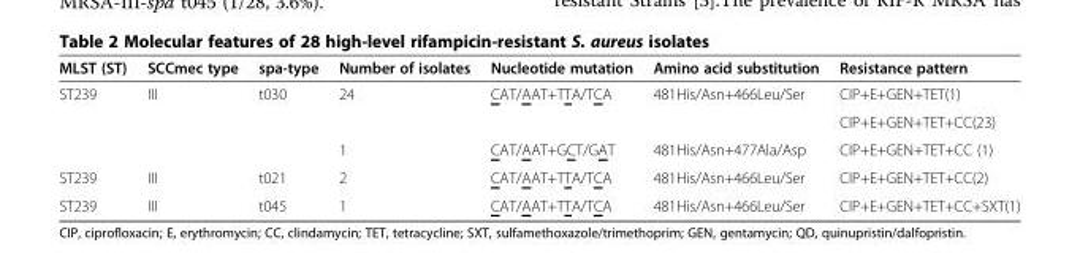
<table><thead><tr><td>MLST (ST)</td><td>SCCmec type</td><td>spa-type</td><td>Number of isolates</td><td>Nucleotide mutation</td><td>Amino acid substitution</td><td>Resistance pattern</td></tr></thead><tbody><tr><td rowspan="3">ST239</td><td rowspan="3">III</td><td rowspan="3">t030</td><td rowspan="2">24</td><td rowspan="2">CAT/AAT+TTA/TCA</td><td rowspan="2">481His/Asn+466Leu/Ser</td><td>CIP+E+GEN+TET(1)</td></tr><tr><td>CIP+E+GEN+TET+CC(23)</td></tr><tr><td>1</td><td>CAT/AAT+GCT/GAT</td><td>481His/Asn+477Ala/Asp</td><td>CIP+E+GEN+TET+CC (1)</td></tr><tr><td>ST239</td><td>III</td><td>t021</td><td>2</td><td>CAT/AAT+TTA/TCA</td><td>481His/Asn+466Leu/Ser</td><td>CIP+E+GEN+TET+CC(2)</td></tr><tr><td>ST239</td><td>III</td><td>t045</td><td>1</td><td>CAT/AAT+TTA/TCA</td><td>481His/Asn+466Leu/Ser</td><td>CIP+E+GEN+TET+CC+SXT(1)</td></tr></tbody></table>